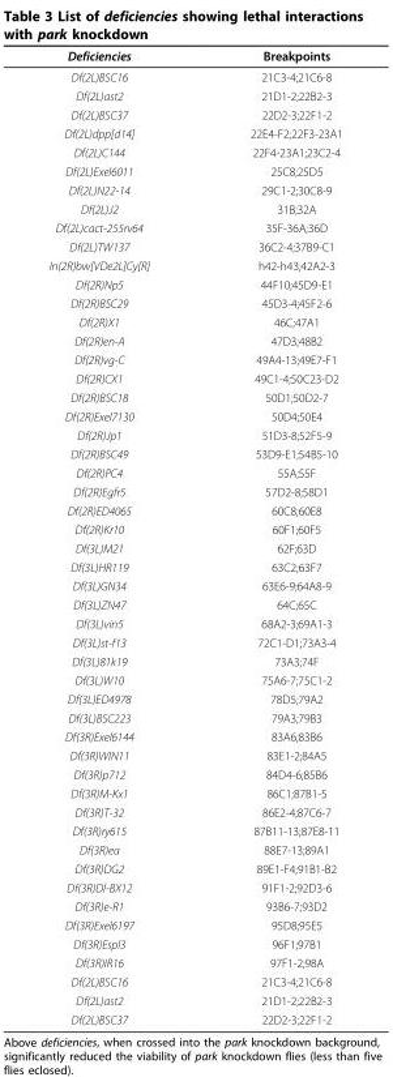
<table><thead><tr><td>Deficiencies</td><td>Breakpoints</td></tr></thead><tbody><tr><td>Df(2L)BSC16</td><td>21C3-4;21C6-8</td></tr><tr><td>Df(2L)ast2</td><td>21D1-2;22B2-3</td></tr><tr><td>Df(2L)BSC37</td><td>22D2-3;22F1-2</td></tr><tr><td>Df(2L)dpp[d14]</td><td>22E4-F2;22F3-23A1</td></tr><tr><td>Df(2L)C144</td><td>22F4-23A1;23C2-4</td></tr><tr><td>Df(2L)Exel6011</td><td>25C8;25D5</td></tr><tr><td>Df(2L)N22-14</td><td>29C1-2;30C8-9</td></tr><tr><td>Df(2L)J2</td><td>31B;32A</td></tr><tr><td>Df(2L)cact-255rv64</td><td>35F-36A;36D</td></tr><tr><td>Df(2L)TW137</td><td>36C2-4;37B9-C1</td></tr><tr><td>In(2R)bw[VDe2L]Cy[R]</td><td>h42-h43;42A2-3</td></tr><tr><td>Df(2R)Np5</td><td>44F10;45D9-E1</td></tr><tr><td>Df(2R)BSC29</td><td>45D3-4;45F2-6</td></tr><tr><td>Df(2R)X1</td><td>46C;47A1</td></tr><tr><td>Df(2R)en-A</td><td>47D3;48B2</td></tr><tr><td>Df(2R)vg-C</td><td>49A4-13;49E7-F1</td></tr><tr><td>Df(2R)CX1</td><td>49C1-4;50C23-D2</td></tr><tr><td>Df(2R)BSC18</td><td>50D1;50D2-7</td></tr><tr><td>Df(2R)Exel7130</td><td>50D4;50E4</td></tr><tr><td>Df(2R)Jp1</td><td>51D3-8;52F5-9</td></tr><tr><td>Df(2R)BSC49</td><td>53D9-E1;54B5-10</td></tr><tr><td>Df(2R)PC4</td><td>55A;55F</td></tr><tr><td>Df(2R)Egfr5</td><td>57D2-8;58D1</td></tr><tr><td>Df(2R)ED4065</td><td>60C8;60E8</td></tr><tr><td>Df(2R)Kr10</td><td>60F1;60F5</td></tr><tr><td>Df(3L)M21</td><td>62F;63D</td></tr><tr><td>Df(3L)HR119</td><td>63C2;63F7</td></tr><tr><td>Df(3L)GN34</td><td>63E6-9;64A8-9</td></tr><tr><td>Df(3L)ZN47</td><td>64C;65C</td></tr><tr><td>Df(3L)vin5</td><td>68A2-3;69A1-3</td></tr><tr><td>Df(3L)st-f13</td><td>72C1-D1;73A3-4</td></tr><tr><td>Df(3L)81k19</td><td>73A3;74F</td></tr><tr><td>Df(3L)W10</td><td>75A6-7;75C1-2</td></tr><tr><td>Df(3L)ED4978</td><td>78D5;79A2</td></tr><tr><td>Df(3L)BSC223</td><td>79A3;79B3</td></tr><tr><td>Df(3R)Exel6144</td><td>83A6;83B6</td></tr><tr><td>Df(3R)WIN11</td><td>83E1-2;84A5</td></tr><tr><td>Df(3R)p712</td><td>84D4-6;85B6</td></tr><tr><td>Df(3R)M-Kx1</td><td>86C1;87B1-5</td></tr><tr><td>Df(3R)T-32</td><td>86E2-4;87C6-7</td></tr><tr><td>Df(3R)ry615</td><td>87B11-13;87E8-11</td></tr><tr><td>Df(3R)ea</td><td>88E7-13;89A1</td></tr><tr><td>Df(3R)DG2</td><td>89E1-F4;91B1-B2</td></tr><tr><td>Df(3R)Dl-BX12</td><td>91F1-2;92D3-6</td></tr><tr><td>Df(3R)e-R1</td><td>93B6-7;93D2</td></tr><tr><td>Df(3R)Exel6197</td><td>95D8;95E5</td></tr><tr><td>Df(3R)Espl3</td><td>96F1;97B1</td></tr><tr><td>Df(3R)IR16</td><td>97F1-2;98A</td></tr><tr><td>Df(2L)BSC16</td><td>21C3-4;21C6-8</td></tr><tr><td>Df(2L)ast2</td><td>21D1-2;22B2-3</td></tr><tr><td>Df(2L)BSC37</td><td>22D2-3;22F1-2</td></tr></tbody></table>